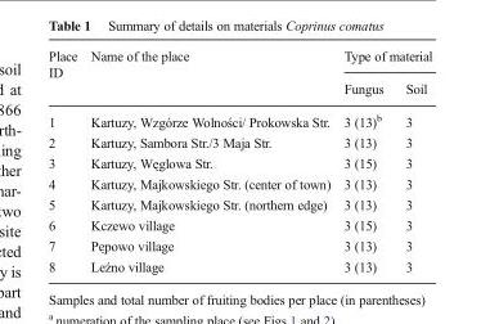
<table><thead><tr><td rowspan="2">Place ID</td><td rowspan="2">Name of the place</td><td colspan="2">Type of material</td></tr><tr><td>Fungus</td><td>Soil</td></tr></thead><tbody><tr><td>1</td><td>Kartuzy, Wzgórze Wolności/ Prokowska Str.</td><td>3 (13)<sup>b</sup></td><td>3</td></tr><tr><td>2</td><td>Kartuzy, Sambora Str./3 Maja Str.</td><td>3 (13)</td><td>3</td></tr><tr><td>3</td><td>Kartuzy, Węglowa Str.</td><td>3 (15)</td><td>3</td></tr><tr><td>4</td><td>Kartuzy, Majkowskiego Str. (center of town)</td><td>3 (13)</td><td>3</td></tr><tr><td>5</td><td>Kartuzy, Majkowskiego Str. (northern edge)</td><td>3 (13)</td><td>3</td></tr><tr><td>6</td><td>Kczewo village</td><td>3 (15)</td><td>3</td></tr><tr><td>7</td><td>Pępowo village</td><td>3 (13)</td><td>3</td></tr><tr><td>8</td><td>Leźno village</td><td>3 (13)</td><td>3</td></tr></tbody></table>